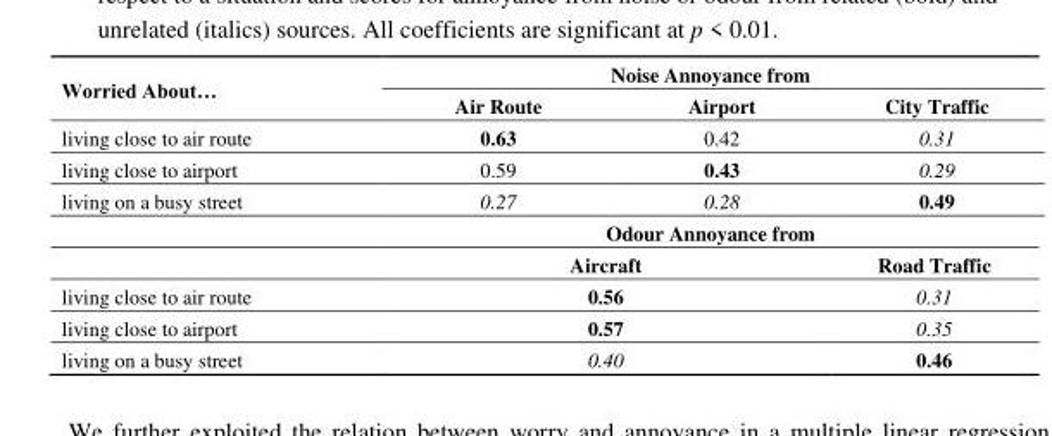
<table><thead><tr><td rowspan="2">Worried About…</td><td colspan="3">Noise Annoyance from</td></tr><tr><td>Air Route</td><td>Airport</td><td>City Traffic</td></tr></thead><tbody><tr><td>living close to air route</td><td>0.63</td><td>0.42</td><td>0.31</td></tr><tr><td>living close to airport</td><td>0.59</td><td>0.43</td><td>0.29</td></tr><tr><td rowspan="3">living on a busy street</td><td>0.27</td><td>0.28</td><td>0.49</td></tr><tr><td colspan="3">Odour Annoyance from</td></tr><tr><td colspan="2">Aircraft</td><td>Road Traffic</td></tr><tr><td>living close to air route</td><td colspan="2">0.56</td><td>0.31</td></tr><tr><td>living close to airport</td><td colspan="2">0.57</td><td>0.35</td></tr><tr><td>living on a busy street</td><td colspan="2">0.40</td><td>0.46</td></tr></tbody></table>